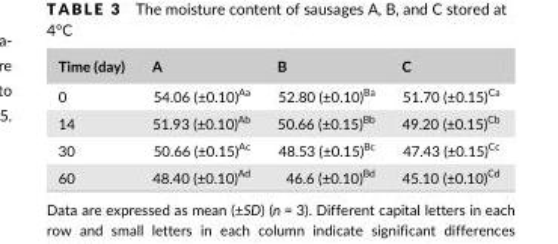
<table><thead><tr><td>Time (day)</td><td>A</td><td>B</td><td>C</td></tr></thead><tbody><tr><td>0</td><td>54.06 (±0.10)<sup>Aa</sup></td><td>52.80 (±0.10)<sup>Ba</sup></td><td>51.70 (±0.15)<sup>Ca</sup></td></tr><tr><td>14</td><td>51.93 (±0.10)<sup>Ab</sup></td><td>50.66 (±0.15)<sup>Bb</sup></td><td>49.20 (±0.15)<sup>Cb</sup></td></tr><tr><td>30</td><td>50.66 (±0.15)<sup>Ac</sup></td><td>48.53 (±0.15)<sup>Bc</sup></td><td>47.43 (±0.15)<sup>Cc</sup></td></tr><tr><td>60</td><td>48.40 (±0.10)<sup>Ad</sup></td><td>46.6 (±0.10)<sup>Bd</sup></td><td>45.10 (±0.10)<sup>Cd</sup></td></tr></tbody></table>